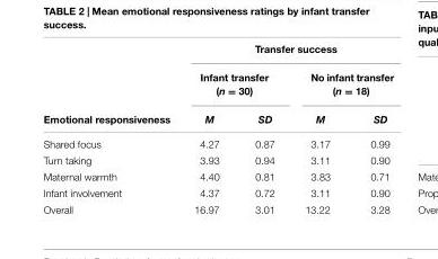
<table><thead><tr><td rowspan="3">Emotional responsiveness</td><td colspan="4">Transfer success</td></tr><tr><td colspan="2">Infant transfer (n = 30)</td><td colspan="2">No infant transfer (n = 18)</td></tr><tr><td>M</td><td>SD</td><td>M</td><td>SD</td></tr></thead><tbody><tr><td>Shared focus</td><td>4.27</td><td>0.87</td><td>3.17</td><td>0.99</td></tr><tr><td>Turn taking</td><td>3.93</td><td>0.94</td><td>3.11</td><td>0.90</td></tr><tr><td>Maternal warmth</td><td>4.40</td><td>0.81</td><td>3.83</td><td>0.71</td></tr><tr><td>Infant involvement</td><td>4.37</td><td>0.72</td><td>3.11</td><td>0.90</td></tr><tr><td>Overall</td><td>16.97</td><td>3.01</td><td>13.22</td><td>3.28</td></tr></tbody></table>